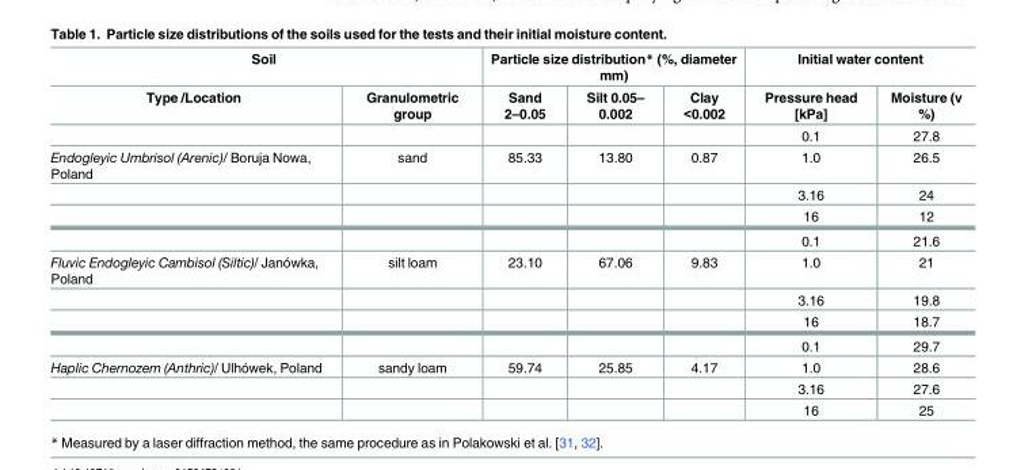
<table><thead><tr><td colspan="2">Soil</td><td colspan="3">Particle size distribution* (%, diameter mm)</td><td colspan="2">Initial water content</td></tr><tr><td>Type /Location</td><td>Granulometric group</td><td>Sand 2–0.05</td><td>Silt 0.05– 0.002</td><td>Clay &lt;0.002</td><td>Pressure head [kPa]</td><td>Moisture (v %)</td></tr></thead><tbody><tr><td></td><td></td><td></td><td></td><td></td><td>0.1</td><td>27.8</td></tr><tr><td rowspan="4">Endogleyic Umbrisol (Arenic)/ Boruja Nowa, Poland</td><td>sand</td><td>85.33</td><td>13.80</td><td>0.87</td><td>1.0</td><td>26.5</td></tr><tr><td></td><td></td><td></td><td></td><td>3.16</td><td>24</td></tr><tr><td></td><td></td><td></td><td></td><td>16</td><td>12</td></tr><tr><td></td><td></td><td></td><td></td><td>0.1</td><td>21.6</td></tr><tr><td rowspan="4">Fluvic Endogleyic Cambisol (Siltic)/ Janówka, Poland</td><td>silt loam</td><td>23.10</td><td>67.06</td><td>9.83</td><td>1.0</td><td>21</td></tr><tr><td></td><td></td><td></td><td></td><td>3.16</td><td>19.8</td></tr><tr><td></td><td></td><td></td><td></td><td>16</td><td>18.7</td></tr><tr><td></td><td></td><td></td><td></td><td>0.1</td><td>29.7</td></tr><tr><td rowspan="3">Haplic Chernozem (Anthric)/ Ulhówek, Poland</td><td>sandy loam</td><td>59.74</td><td>25.85</td><td>4.17</td><td>1.0</td><td>28.6</td></tr><tr><td></td><td></td><td></td><td></td><td>3.16</td><td>27.6</td></tr><tr><td></td><td></td><td></td><td></td><td>16</td><td>25</td></tr></tbody></table>